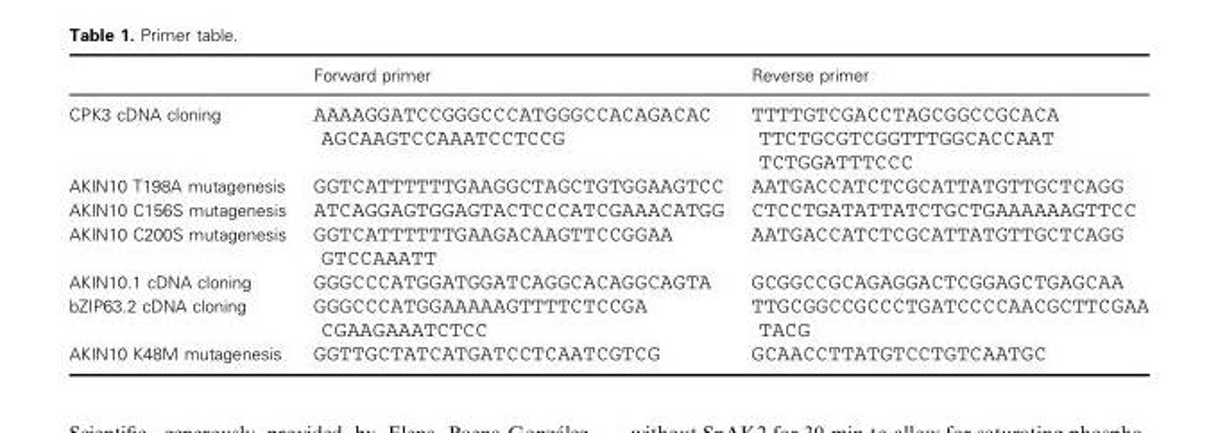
<table><thead><tr><td></td><td>Forward primer</td><td>Reverse primer</td></tr></thead><tbody><tr><td>CPK3 cDNA cloning</td><td>AAAAGGATCCGGGCCCATGGGCCACAGACAC AGCAAGTCCAAATCCTCCG</td><td>TTTTGTCGACCTAGCGGCCGCACA TTCTGCGTCGGTTTGGCACCAAT TCTGGATTTCCC</td></tr><tr><td>AKIN10 T198A mutagenesis</td><td>GGTCATTTTTTGAAGGCTAGCTGTGGAAGTCC</td><td>AATGACCATCTCGCATTATGTTGCTCAGG</td></tr><tr><td>AKIN10 C156S mutagenesis</td><td>ATCAGGAGTGGAGTACTCCCATCGAAACATGG</td><td>CTCCTGATATTATCTGCTGAAAAAAGTTCC</td></tr><tr><td>AKIN10 C200S mutagenesis</td><td>GGTCATTTTTTGAAGACAAGTTCCGGAA GTCCAAATT</td><td>AATGACCATCTCGCATTATGTTGCTCAGG</td></tr><tr><td>AKIN10.1 cDNA cloning</td><td>GGGCCCATGGATGGATCAGGCACAGGCAGTA</td><td>GCGGCCGCAGAGGACTCGGAGCTGAGCAA</td></tr><tr><td>bZIP63.2 cDNA cloning</td><td>GGGCCCATGGAAAAAGTTTTCTCCGA CGAAGAAATCTCC</td><td>TTGCGGCCGCCCTGATCCCCAACGCTTCGAA TACG</td></tr><tr><td>AKIN10 K48M mutagenesis</td><td>GGTTGCTATCATGATCCTCAATCGTCG</td><td>GCAACCTTATGTCCTGTCAATGC</td></tr></tbody></table>